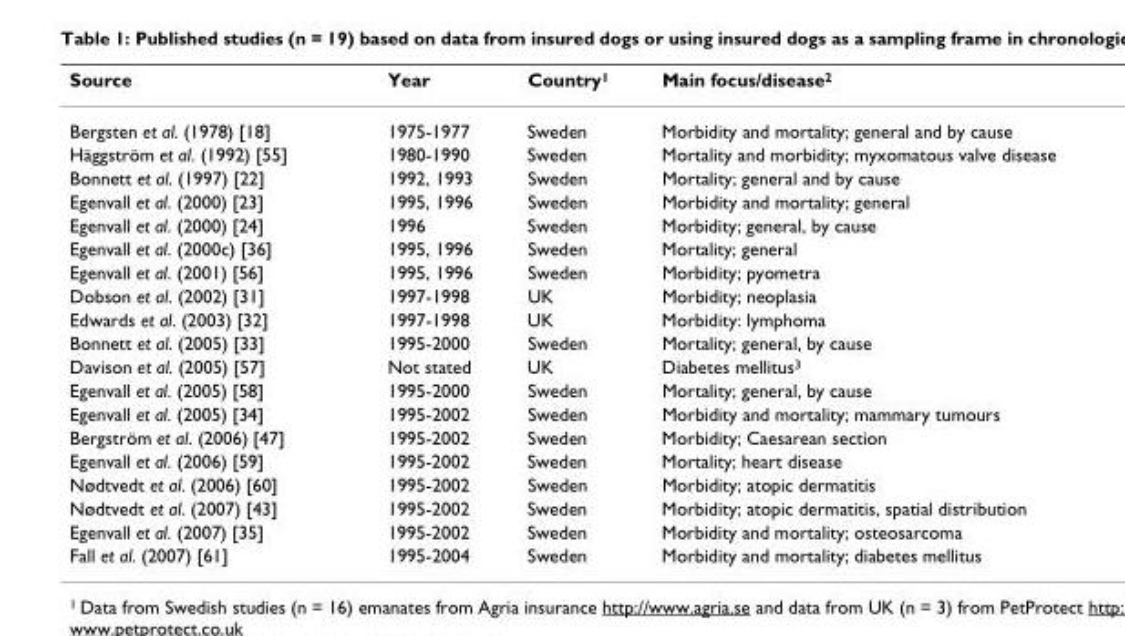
<table><thead><tr><td>Source</td><td>Year</td><td>Country<sup>1</sup></td><td>Main focus/disease<sup>2</sup></td></tr></thead><tbody><tr><td>Bergsten et al. (1978) [18]</td><td>1975-1977</td><td>Sweden</td><td>Morbidity and mortality; general and by cause</td></tr><tr><td>Häggström et al. (1992) [55]</td><td>1980-1990</td><td>Sweden</td><td>Mortality and morbidity; myxomatous valve disease</td></tr><tr><td>Bonnett et al. (1997) [22]</td><td>1992, 1993</td><td>Sweden</td><td>Mortality; general and by cause</td></tr><tr><td>Egenvall et al. (2000) [23]</td><td>1995, 1996</td><td>Sweden</td><td>Morbidity and mortality; general</td></tr><tr><td>Egenvall et al. (2000) [24]</td><td>1996</td><td>Sweden</td><td>Morbidity; general, by cause</td></tr><tr><td>Egenvall et al. (2000c) [36]</td><td>1995, 1996</td><td>Sweden</td><td>Mortality; general</td></tr><tr><td>Egenvall et al. (2001) [56]</td><td>1995, 1996</td><td>Sweden</td><td>Morbidity; pyometra</td></tr><tr><td>Dobson et al. (2002) [31]</td><td>1997-1998</td><td>UK</td><td>Morbidity; neoplasia</td></tr><tr><td>Edwards et al. (2003) [32]</td><td>1997-1998</td><td>UK</td><td>Morbidity: lymphoma</td></tr><tr><td>Bonnett et al. (2005) [33]</td><td>1995-2000</td><td>Sweden</td><td>Mortality; general, by cause</td></tr><tr><td>Davison et al. (2005) [57]</td><td>Not stated</td><td>UK</td><td>Diabetes mellitus<sup>3</sup></td></tr><tr><td>Egenvall et al. (2005) [58]</td><td>1995-2000</td><td>Sweden</td><td>Mortality; general, by cause</td></tr><tr><td>Egenvall et al. (2005) [34]</td><td>1995-2002</td><td>Sweden</td><td>Morbidity and mortality; mammary tumours</td></tr><tr><td>Bergström et al. (2006) [47]</td><td>1995-2002</td><td>Sweden</td><td>Morbidity; Caesarean section</td></tr><tr><td>Egenvall et al. (2006) [59]</td><td>1995-2002</td><td>Sweden</td><td>Mortality; heart disease</td></tr><tr><td>Nødtvedt et al. (2006) [60]</td><td>1995-2002</td><td>Sweden</td><td>Morbidity; atopic dermatitis</td></tr><tr><td>Nødtvedt et al. (2007) [43]</td><td>1995-2002</td><td>Sweden</td><td>Morbidity; atopic dermatitis, spatial distribution</td></tr><tr><td>Egenvall et al. (2007) [35]</td><td>1995-2002</td><td>Sweden</td><td>Morbidity and mortality; osteosarcoma</td></tr><tr><td>Fall et al. (2007) [61]</td><td>1995-2004</td><td>Sweden</td><td>Morbidity and mortality; diabetes mellitus</td></tr></tbody></table>